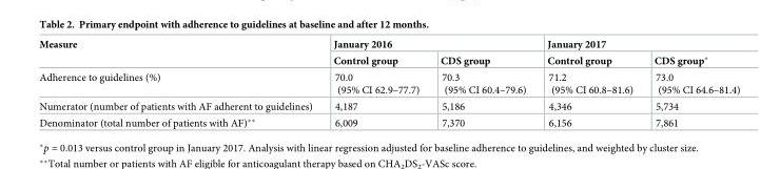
<table><thead><tr><td rowspan="2">Measure</td><td colspan="2">January 2016</td><td colspan="2">January 2017</td></tr><tr><td>Control group</td><td>CDS group</td><td>Control group</td><td>CDS group*</td></tr></thead><tbody><tr><td>Adherence to guidelines (%)</td><td>70.0 (95% CI 62.9–77.7)</td><td>70.3 (95% CI 60.4–79.6)</td><td>71.2 (95% CI 60.8–81.6)</td><td>73.0 (95% CI 64.6–81.4)</td></tr><tr><td>Numerator (number of patients with AF adherent to guidelines)</td><td>4,187</td><td>5,186</td><td>4,346</td><td>5,734</td></tr><tr><td>Denominator (total number of patients with AF)**</td><td>6,009</td><td>7,370</td><td>6,156</td><td>7,861</td></tr></tbody></table>